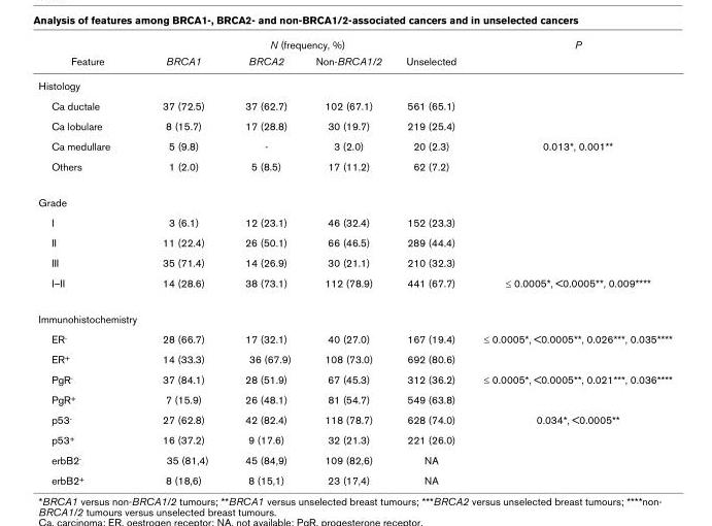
<table><thead><tr><td rowspan="2">Feature</td><td colspan="4">N (frequency, %)</td><td rowspan="2">P</td></tr><tr><td>BRCA1</td><td>BRCA2</td><td>Non-BRCA1/2</td><td>Unselected</td></tr></thead><tbody><tr><td colspan="6">Histology</td></tr><tr><td>Ca ductale</td><td>37 (72.5)</td><td>37 (62.7)</td><td>102 (67.1)</td><td>561 (65.1)</td><td></td></tr><tr><td>Ca lobulare</td><td>8 (15.7)</td><td>17 (28.8)</td><td>30 (19.7)</td><td>219 (25.4)</td><td></td></tr><tr><td>Ca medullare</td><td>5 (9.8)</td><td>-</td><td>3 (2.0)</td><td>20 (2.3)</td><td>0.013*, 0.001**</td></tr><tr><td>Others</td><td>1 (2.0)</td><td>5 (8.5)</td><td>17 (11.2)</td><td>62 (7.2)</td><td></td></tr><tr><td colspan="6">Grade</td></tr><tr><td>I</td><td>3 (6.1)</td><td>12 (23.1)</td><td>46 (32.4)</td><td>152 (23.3)</td><td></td></tr><tr><td>II</td><td>11 (22.4)</td><td>26 (50.1)</td><td>66 (46.5)</td><td>289 (44.4)</td><td></td></tr><tr><td>III</td><td>35 (71.4)</td><td>14 (26.9)</td><td>30 (21.1)</td><td>210 (32.3)</td><td></td></tr><tr><td>I–II</td><td>14 (28.6)</td><td>38 (73.1)</td><td>112 (78.9)</td><td>441 (67.7)</td><td>≤ 0.0005*, &lt;0.0005**, 0.009****</td></tr><tr><td colspan="6">Immunohistochemistry</td></tr><tr><td>ER-</td><td>28 (66.7)</td><td>17 (32.1)</td><td>40 (27.0)</td><td>167 (19.4)</td><td>≤ 0.0005*, &lt;0.0005**, 0.026***, 0.035****</td></tr><tr><td>ER+</td><td>14 (33.3)</td><td>36 (67.9)</td><td>108 (73.0)</td><td>692 (80.6)</td><td></td></tr><tr><td>PgR-</td><td>37 (84.1)</td><td>28 (51.9)</td><td>67 (45.3)</td><td>312 (36.2)</td><td>≤ 0.0005*, &lt;0.0005**, 0.021***, 0.036****</td></tr><tr><td>PgR+</td><td>7 (15.9)</td><td>26 (48.1)</td><td>81 (54.7)</td><td>549 (63.8)</td><td></td></tr><tr><td>p53-</td><td>27 (62.8)</td><td>42 (82.4)</td><td>118 (78.7)</td><td>628 (74.0)</td><td>0.034*, &lt;0.0005**</td></tr><tr><td>p53+</td><td>16 (37.2)</td><td>9 (17.6)</td><td>32 (21.3)</td><td>221 (26.0)</td><td></td></tr><tr><td>erbB2-</td><td>35 (81,4)</td><td>45 (84,9)</td><td>109 (82,6)</td><td>NA</td><td></td></tr><tr><td>erbB2+</td><td>8 (18,6)</td><td>8 (15,1)</td><td>23 (17,4)</td><td>NA</td><td></td></tr></tbody></table>